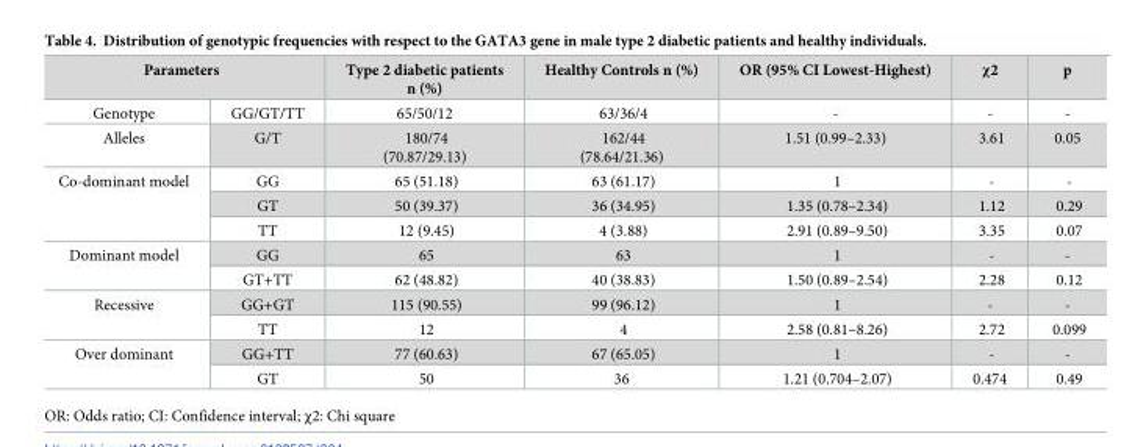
<table><thead><tr><td colspan="2">Parameters</td><td rowspan="2">Type 2 diabetic patients n (%) 65/50/12</td><td rowspan="2">Healthy Controls n (%) 63/36/4</td><td rowspan="2">OR (95% CI Lowest-Highest) -</td><td rowspan="2">χ2 -</td><td rowspan="2">p -</td></tr><tr><td>Genotype</td><td>GG/GT/TT</td></tr></thead><tbody><tr><td>Alleles</td><td>G/T</td><td>180/74 (70.87/29.13)</td><td>162/44 (78.64/21.36)</td><td>1.51 (0.99–2.33)</td><td>3.61</td><td>0.05</td></tr><tr><td rowspan="3">Co-dominant model</td><td>GG</td><td>65 (51.18)</td><td>63 (61.17)</td><td>1</td><td>-</td><td>-</td></tr><tr><td>GT</td><td>50 (39.37)</td><td>36 (34.95)</td><td>1.35 (0.78–2.34)</td><td>1.12</td><td>0.29</td></tr><tr><td>TT</td><td>12 (9.45)</td><td>4 (3.88)</td><td>2.91 (0.89–9.50)</td><td>3.35</td><td>0.07</td></tr><tr><td rowspan="2">Dominant model</td><td>GG</td><td>65</td><td>63</td><td>1</td><td>-</td><td>-</td></tr><tr><td>GT+TT</td><td>62 (48.82)</td><td>40 (38.83)</td><td>1.50 (0.89–2.54)</td><td>2.28</td><td>0.12</td></tr><tr><td rowspan="2">Recessive</td><td>GG+GT</td><td>115 (90.55)</td><td>99 (96.12)</td><td>1</td><td>-</td><td>-</td></tr><tr><td>TT</td><td>12</td><td>4</td><td>2.58 (0.81–8.26)</td><td>2.72</td><td>0.099</td></tr><tr><td rowspan="2">Over dominant</td><td>GG+TT</td><td>77 (60.63)</td><td>67 (65.05)</td><td>1</td><td>-</td><td>-</td></tr><tr><td>GT</td><td>50</td><td>36</td><td>1.21 (0.704–2.07)</td><td>0.474</td><td>0.49</td></tr></tbody></table>